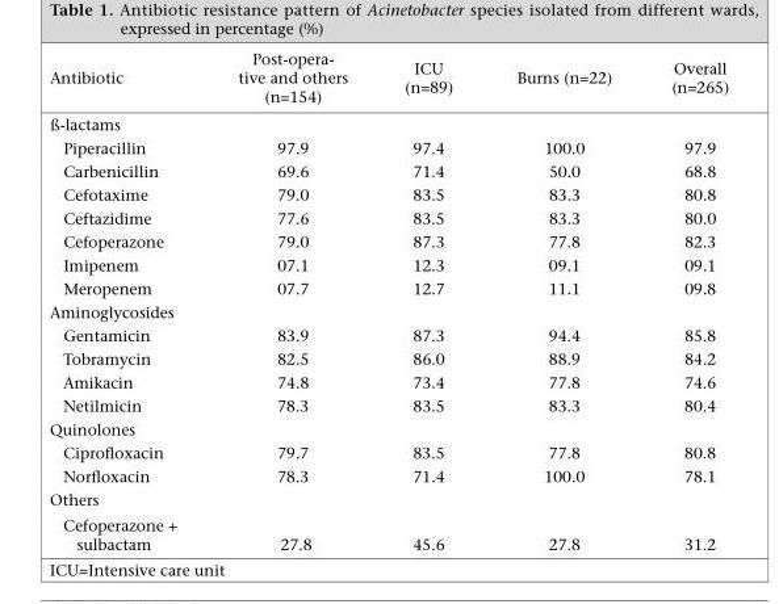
<table><thead><tr><td>Antibiotic</td><td>Post-opera- tive and others (n=154)</td><td>ICU (n=89)</td><td>Burns (n=22)</td><td>Overall (n=265)</td></tr></thead><tbody><tr><td colspan="5">ß-lactams</td></tr><tr><td>Piperacillin</td><td>97.9</td><td>97.4</td><td>100.0</td><td>97.9</td></tr><tr><td>Carbenicillin</td><td>69.6</td><td>71.4</td><td>50.0</td><td>68.8</td></tr><tr><td>Cefotaxime</td><td>79.0</td><td>83.5</td><td>83.3</td><td>80.8</td></tr><tr><td>Ceftazidime</td><td>77.6</td><td>83.5</td><td>83.3</td><td>80.0</td></tr><tr><td>Cefoperazone</td><td>79.0</td><td>87.3</td><td>77.8</td><td>82.3</td></tr><tr><td>Imipenem</td><td>07.1</td><td>12.3</td><td>09.1</td><td>09.1</td></tr><tr><td>Meropenem</td><td>07.7</td><td>12.7</td><td>11.1</td><td>09.8</td></tr><tr><td colspan="5">Aminoglycosides</td></tr><tr><td>Gentamicin</td><td>83.9</td><td>87.3</td><td>94.4</td><td>85.8</td></tr><tr><td>Tobramycin</td><td>82.5</td><td>86.0</td><td>88.9</td><td>84.2</td></tr><tr><td>Amikacin</td><td>74.8</td><td>73.4</td><td>77.8</td><td>74.6</td></tr><tr><td>Netilmicin</td><td>78.3</td><td>83.5</td><td>83.3</td><td>80.4</td></tr><tr><td colspan="5">Quinolones</td></tr><tr><td>Ciprofloxacin</td><td>79.7</td><td>83.5</td><td>77.8</td><td>80.8</td></tr><tr><td>Norfloxacin</td><td>78.3</td><td>71.4</td><td>100.0</td><td>78.1</td></tr><tr><td colspan="5">Others</td></tr><tr><td>Cefoperazone + sulbactam</td><td>27.8</td><td>45.6</td><td>27.8</td><td>31.2</td></tr></tbody></table>